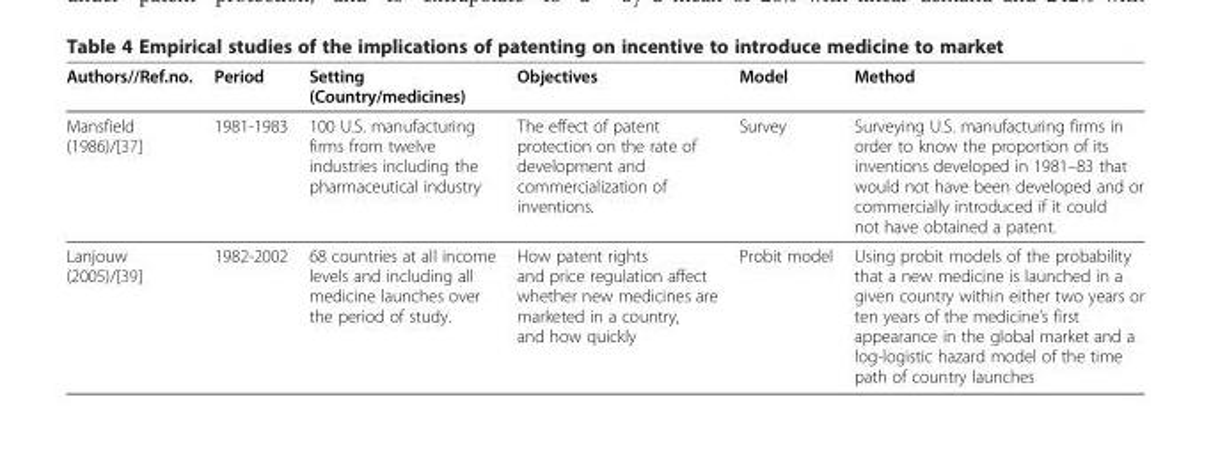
<table><thead><tr><td>Authors//Ref.no.</td><td>Period</td><td>Setting (Country/medicines)</td><td>Objectives</td><td>Model</td><td>Method</td></tr></thead><tbody><tr><td>Mansfield (1986)/[37]</td><td>1981-1983</td><td>100 U.S. manufacturing firms from twelve industries including the pharmaceutical industry</td><td>The effect of patent protection on the rate of development and commercialization of inventions.</td><td>Survey</td><td>Surveying U.S. manufacturing firms in order to know the proportion of its inventions developed in 1981–83 that would not have been developed and or commercially introduced if it could not have obtained a patent.</td></tr><tr><td>Lanjouw (2005)/[39]</td><td>1982-2002</td><td>68 countries at all income levels and including all medicine launches over the period of study.</td><td>How patent rights and price regulation affect whether new medicines are marketed in a country, and how quickly</td><td>Probit model</td><td>Using probit models of the probability that a new medicine is launched in a given country within either two years or ten years of the medicine’s first appearance in the global market and a log-logistic hazard model of the time path of country launches</td></tr></tbody></table>